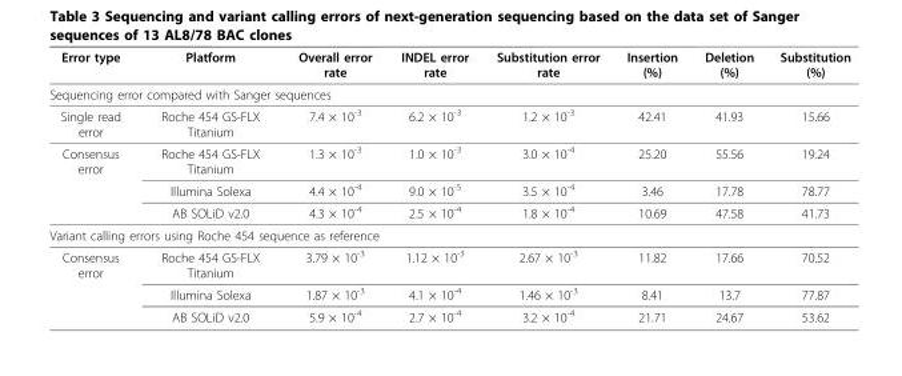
<table><thead><tr><td>Error type</td><td>Platform</td><td>Overall error rate</td><td>INDEL error rate</td><td>Substitution error rate</td><td>Insertion (%)</td><td>Deletion (%)</td><td>Substitution (%)</td></tr></thead><tbody><tr><td colspan="8">Sequencing error compared with Sanger sequences</td></tr><tr><td>Single read error</td><td>Roche 454 GS-FLX Titanium</td><td>7.4 × 10<sup>-3</sup></td><td>6.2 × 10<sup>-3</sup></td><td>1.2 × 10<sup>-3</sup></td><td>42.41</td><td>41.93</td><td>15.66</td></tr><tr><td rowspan="3">Consensus error</td><td>Roche 454 GS-FLX Titanium</td><td>1.3 × 10<sup>-3</sup></td><td>1.0 × 10<sup>-3</sup></td><td>3.0 × 10<sup>-4</sup></td><td>25.20</td><td>55.56</td><td>19.24</td></tr><tr><td>Illumina Solexa</td><td>4.4 × 10<sup>-4</sup></td><td>9.0 × 10<sup>-5</sup></td><td>3.5 × 10<sup>-4</sup></td><td>3.46</td><td>17.78</td><td>78.77</td></tr><tr><td>AB SOLiD v2.0</td><td>4.3 × 10<sup>-4</sup></td><td>2.5 × 10<sup>-4</sup></td><td>1.8 × 10<sup>-4</sup></td><td>10.69</td><td>47.58</td><td>41.73</td></tr><tr><td colspan="8">Variant calling errors using Roche 454 sequence as reference</td></tr><tr><td rowspan="3">Consensus error</td><td>Roche 454 GS-FLX Titanium</td><td>3.79 × 10<sup>-3</sup></td><td>1.12 × 10<sup>-3</sup></td><td>2.67 × 10<sup>-3</sup></td><td>11.82</td><td>17.66</td><td>70.52</td></tr><tr><td>Illumina Solexa</td><td>1.87 × 10<sup>-3</sup></td><td>4.1 × 10<sup>-4</sup></td><td>1.46 × 10<sup>-3</sup></td><td>8.41</td><td>13.7</td><td>77.87</td></tr><tr><td>AB SOLiD v2.0</td><td>5.9 × 10<sup>-4</sup></td><td>2.7 × 10<sup>-4</sup></td><td>3.2 × 10<sup>-4</sup></td><td>21.71</td><td>24.67</td><td>53.62</td></tr></tbody></table>